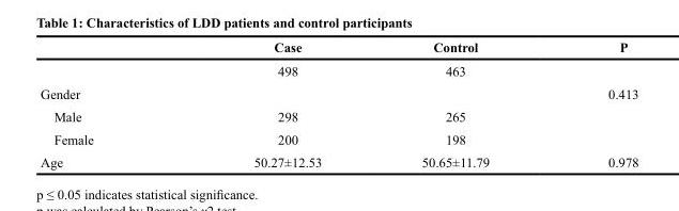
<table><thead><tr><td></td><td>Case</td><td>Control</td><td>P</td></tr></thead><tbody><tr><td></td><td>498</td><td>463</td><td></td></tr><tr><td>Gender</td><td></td><td></td><td>0.413</td></tr><tr><td>Male</td><td>298</td><td>265</td><td></td></tr><tr><td>Female</td><td>200</td><td>198</td><td></td></tr><tr><td>Age</td><td>50.27±12.53</td><td>50.65±11.79</td><td>0.978</td></tr></tbody></table>